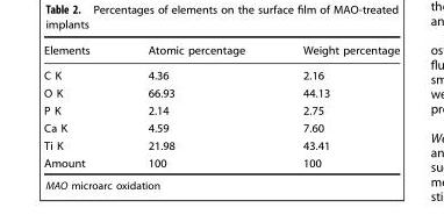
<table><thead><tr><td>Elements</td><td>Atomic percentage</td><td>Weight percentage</td></tr></thead><tbody><tr><td>C K</td><td>4.36</td><td>2.16</td></tr><tr><td>O K</td><td>66.93</td><td>44.13</td></tr><tr><td>P K</td><td>2.14</td><td>2.75</td></tr><tr><td>Ca K</td><td>4.59</td><td>7.60</td></tr><tr><td>Ti K</td><td>21.98</td><td>43.41</td></tr><tr><td>Amount</td><td>100</td><td>100</td></tr></tbody></table>